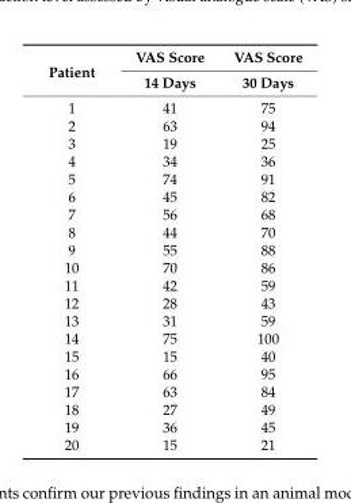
<table><thead><tr><td rowspan="2">Patient</td><td rowspan="2">VAS Score 14 Days</td><td rowspan="2">VAS Score 30 Days</td></tr><tr></tr></thead><tbody><tr><td>1</td><td>41</td><td>75</td></tr><tr><td>2</td><td>63</td><td>94</td></tr><tr><td>3</td><td>19</td><td>25</td></tr><tr><td>4</td><td>34</td><td>36</td></tr><tr><td>5</td><td>74</td><td>91</td></tr><tr><td>6</td><td>45</td><td>82</td></tr><tr><td>7</td><td>56</td><td>68</td></tr><tr><td>8</td><td>44</td><td>70</td></tr><tr><td>9</td><td>55</td><td>88</td></tr><tr><td>10</td><td>70</td><td>86</td></tr><tr><td>11</td><td>42</td><td>59</td></tr><tr><td>12</td><td>28</td><td>43</td></tr><tr><td>13</td><td>31</td><td>59</td></tr><tr><td>14</td><td>75</td><td>100</td></tr><tr><td>15</td><td>15</td><td>40</td></tr><tr><td>16</td><td>66</td><td>95</td></tr><tr><td>17</td><td>63</td><td>84</td></tr><tr><td>18</td><td>27</td><td>49</td></tr><tr><td>19</td><td>36</td><td>45</td></tr><tr><td>20</td><td>15</td><td>21</td></tr></tbody></table>